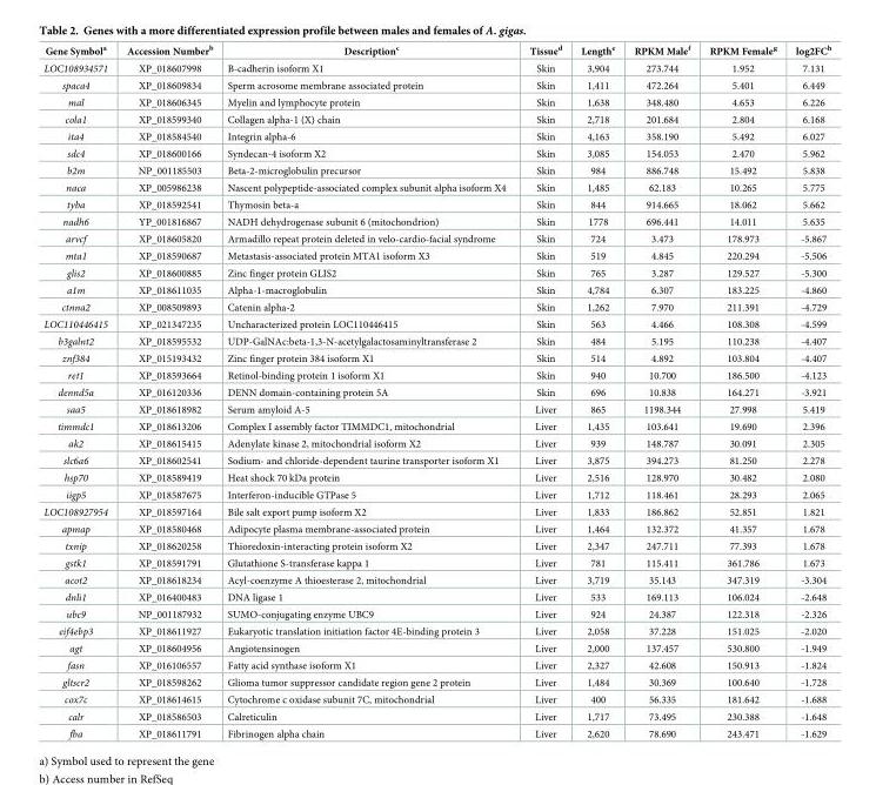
<table><thead><tr><td>Gene Symbol<sup>a</sup></td><td>Accession Number<sup>b</sup></td><td>Description<sup>c</sup></td><td>Tissue<sup>d</sup></td><td>Length<sup>e</sup></td><td>RPKM Male<sup>f</sup></td><td>RPKM Female<sup>g</sup></td><td>log2FC<sup>h</sup></td></tr></thead><tbody><tr><td>LOC108934571</td><td>XP_018607998</td><td>B-cadherin isoform X1</td><td>Skin</td><td>3,904</td><td>273.744</td><td>1.952</td><td>7.131</td></tr><tr><td>spaca4</td><td>XP_018609834</td><td>Sperm acrosome membrane associated protein</td><td>Skin</td><td>1,411</td><td>472.264</td><td>5.401</td><td>6.449</td></tr><tr><td>mal</td><td>XP_018606345</td><td>Myelin and lymphocyte protein</td><td>Skin</td><td>1,638</td><td>348.480</td><td>4.653</td><td>6.226</td></tr><tr><td>cola1</td><td>XP_018599340</td><td>Collagen alpha-1 (X) chain</td><td>Skin</td><td>2,718</td><td>201.684</td><td>2.804</td><td>6.168</td></tr><tr><td>ita4</td><td>XP_018584540</td><td>Integrin alpha-6</td><td>Skin</td><td>4,163</td><td>358.190</td><td>5.492</td><td>6.027</td></tr><tr><td>sdc4</td><td>XP_018600166</td><td>Syndecan-4 isoform X2</td><td>Skin</td><td>3,085</td><td>154.053</td><td>2.470</td><td>5.962</td></tr><tr><td>b2m</td><td>NP_001185503</td><td>Beta-2-microglobulin precursor</td><td>Skin</td><td>984</td><td>886.748</td><td>15.492</td><td>5.838</td></tr><tr><td>naca</td><td>XP_005986238</td><td>Nascent polypeptide-associated complex subunit alpha isoform X4</td><td>Skin</td><td>1,485</td><td>62.183</td><td>10.265</td><td>5.775</td></tr><tr><td>tyba</td><td>XP_018592541</td><td>Thymosin beta-a</td><td>Skin</td><td>844</td><td>914.665</td><td>18.062</td><td>5.662</td></tr><tr><td>nadh6</td><td>YP_001816867</td><td>NADH dehydrogenase subunit 6 (mitochondrion)</td><td>Skin</td><td>1778</td><td>696.441</td><td>14.011</td><td>5.635</td></tr><tr><td>arvcf</td><td>XP_018605820</td><td>Armadillo repeat protein deleted in velo-cardio-facial syndrome</td><td>Skin</td><td>724</td><td>3.473</td><td>178.973</td><td>-5.867</td></tr><tr><td>mta1</td><td>XP_018590687</td><td>Metastasis-associated protein MTA1 isoform X3</td><td>Skin</td><td>519</td><td>4.845</td><td>220.294</td><td>-5.506</td></tr><tr><td>glis2</td><td>XP_018600885</td><td>Zinc finger protein GLIS2</td><td>Skin</td><td>765</td><td>3.287</td><td>129.527</td><td>-5.300</td></tr><tr><td>a1m</td><td>XP_018611035</td><td>Alpha-1-macroglobulin</td><td>Skin</td><td>4,784</td><td>6.307</td><td>183.225</td><td>-4.860</td></tr><tr><td>ctnna2</td><td>XP_008509893</td><td>Catenin alpha-2</td><td>Skin</td><td>1,262</td><td>7.970</td><td>211.391</td><td>-4.729</td></tr><tr><td>LOC110446415</td><td>XP_021347235</td><td>Uncharacterized protein LOC110446415</td><td>Skin</td><td>563</td><td>4.466</td><td>108.308</td><td>-4.599</td></tr><tr><td>b3galnt2</td><td>XP_018595532</td><td>UDP-GalNAc:beta-1,3-N-acetylgalactosaminyltransferase 2</td><td>Skin</td><td>484</td><td>5.195</td><td>110.238</td><td>-4.407</td></tr><tr><td>znf384</td><td>XP_015193432</td><td>Zinc finger protein 384 isoform X1</td><td>Skin</td><td>514</td><td>4.892</td><td>103.804</td><td>-4.407</td></tr><tr><td>ret1</td><td>XP_018593664</td><td>Retinol-binding protein 1 isoform X1</td><td>Skin</td><td>940</td><td>10.700</td><td>186.500</td><td>-4.123</td></tr><tr><td>dennd5a</td><td>XP_016120336</td><td>DENN domain-containing protein 5A</td><td>Skin</td><td>696</td><td>10.838</td><td>164.271</td><td>-3.921</td></tr><tr><td>saa5</td><td>XP_018618982</td><td>Serum amyloid A-5</td><td>Liver</td><td>865</td><td>1198.344</td><td>27.998</td><td>5.419</td></tr><tr><td>timmdc1</td><td>XP_018613206</td><td>Complex I assembly factor TIMMDC1, mitochondrial</td><td>Liver</td><td>1,435</td><td>103.641</td><td>19.690</td><td>2.396</td></tr><tr><td>ak2</td><td>XP_018615415</td><td>Adenylate kinase 2, mitochondrial isoform X2</td><td>Liver</td><td>939</td><td>148.787</td><td>30.091</td><td>2.305</td></tr><tr><td>slc6a6</td><td>XP_018602541</td><td>Sodium- and chloride-dependent taurine transporter isoform X1</td><td>Liver</td><td>3,875</td><td>394.273</td><td>81.250</td><td>2.278</td></tr><tr><td>hsp70</td><td>XP_018589419</td><td>Heat shock 70 kDa protein</td><td>Liver</td><td>2,516</td><td>128.970</td><td>30.482</td><td>2.080</td></tr><tr><td>iigp5</td><td>XP_018587675</td><td>Interferon-inducible GTPase 5</td><td>Liver</td><td>1,712</td><td>118.461</td><td>28.293</td><td>2.065</td></tr><tr><td>LOC108927954</td><td>XP_018597164</td><td>Bile salt export pump isoform X2</td><td>Liver</td><td>1,833</td><td>186.862</td><td>52.851</td><td>1.821</td></tr><tr><td>apmap</td><td>XP_018580468</td><td>Adipocyte plasma membrane-associated protein</td><td>Liver</td><td>1,464</td><td>132.372</td><td>41.357</td><td>1.678</td></tr><tr><td>txnip</td><td>XP_018620258</td><td>Thioredoxin-interacting protein isoform X2</td><td>Liver</td><td>2,347</td><td>247.711</td><td>77.393</td><td>1.678</td></tr><tr><td>gstk1</td><td>XP_018591791</td><td>Glutathione S-transferase kappa 1</td><td>Liver</td><td>781</td><td>115.411</td><td>361.786</td><td>1.673</td></tr><tr><td>acot2</td><td>XP_018618234</td><td>Acyl-coenzyme A thioesterase 2, mitochondrial</td><td>Liver</td><td>3,719</td><td>35.143</td><td>347.319</td><td>-3.304</td></tr><tr><td>dnli1</td><td>XP_016400483</td><td>DNA ligase 1</td><td>Liver</td><td>533</td><td>169.113</td><td>106.024</td><td>-2.648</td></tr><tr><td>ubc9</td><td>NP_001187932</td><td>SUMO-conjugating enzyme UBC9</td><td>Liver</td><td>924</td><td>24.387</td><td>122.318</td><td>-2.326</td></tr><tr><td>eif4ebp3</td><td>XP_018611927</td><td>Eukaryotic translation initiation factor 4E-binding protein 3</td><td>Liver</td><td>2,058</td><td>37.228</td><td>151.025</td><td>-2.020</td></tr><tr><td>agt</td><td>XP_018604956</td><td>Angiotensinogen</td><td>Liver</td><td>2,000</td><td>137.457</td><td>530.800</td><td>-1.949</td></tr><tr><td>fasn</td><td>XP_016106557</td><td>Fatty acid synthase isoform X1</td><td>Liver</td><td>2,327</td><td>42.608</td><td>150.913</td><td>-1.824</td></tr><tr><td>gltscr2</td><td>XP_018598262</td><td>Glioma tumor suppressor candidate region gene 2 protein</td><td>Liver</td><td>1,484</td><td>30.369</td><td>100.640</td><td>-1.728</td></tr><tr><td>cox7c</td><td>XP_018614615</td><td>Cytochrome c oxidase subunit 7C, mitochondrial</td><td>Liver</td><td>400</td><td>56.335</td><td>181.642</td><td>-1.688</td></tr><tr><td>calr</td><td>XP_018586503</td><td>Calreticulin</td><td>Liver</td><td>1,717</td><td>73.495</td><td>230.388</td><td>-1.648</td></tr><tr><td>fba</td><td>XP_018611791</td><td>Fibrinogen alpha chain</td><td>Liver</td><td>2,620</td><td>78.690</td><td>243.471</td><td>-1.629</td></tr></tbody></table>